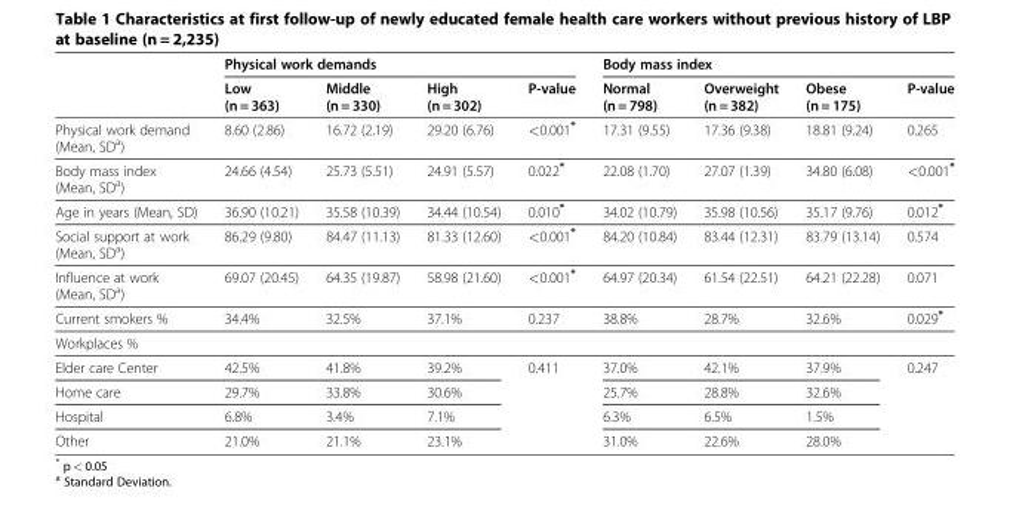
<table><thead><tr><td rowspan="2"></td><td colspan="4">Physical work demands</td><td colspan="4">Body mass index</td></tr><tr><td>Low (n = 363)</td><td>Middle (n = 330)</td><td>High (n = 302)</td><td>P-value</td><td>Normal (n = 798)</td><td>Overweight (n = 382)</td><td>Obese (n = 175)</td><td>P-value</td></tr></thead><tbody><tr><td>Physical work demand (Mean, SD<sup>a</sup>)</td><td>8.60 (2.86)</td><td>16.72 (2.19)</td><td>29.20 (6.76)</td><td>&lt;0.001*</td><td>17.31 (9.55)</td><td>17.36 (9.38)</td><td>18.81 (9.24)</td><td>0.265</td></tr><tr><td>Body mass index (Mean, SD<sup>a</sup>)</td><td>24.66 (4.54)</td><td>25.73 (5.51)</td><td>24.91 (5.57)</td><td>0.022*</td><td>22.08 (1.70)</td><td>27.07 (1.39)</td><td>34.80 (6.08)</td><td>&lt;0.001*</td></tr><tr><td>Age in years (Mean, SD)</td><td>36.90 (10.21)</td><td>35.58 (10.39)</td><td>34.44 (10.54)</td><td>0.010*</td><td>34.02 (10.79)</td><td>35.98 (10.56)</td><td>35.17 (9.76)</td><td>0.012*</td></tr><tr><td>Social support at work (Mean, SD<sup>a</sup>)</td><td>86.29 (9.80)</td><td>84.47 (11.13)</td><td>81.33 (12.60)</td><td>&lt;0.001*</td><td>84.20 (10.84)</td><td>83.44 (12.31)</td><td>83.79 (13.14)</td><td>0.574</td></tr><tr><td>Influence at work (Mean, SD<sup>a</sup>)</td><td>69.07 (20.45)</td><td>64.35 (19.87)</td><td>58.98 (21.60)</td><td>&lt;0.001*</td><td>64.97 (20.34)</td><td>61.54 (22.51)</td><td>64.21 (22.28)</td><td>0.071</td></tr><tr><td>Current smokers %</td><td>34.4%</td><td>32.5%</td><td>37.1%</td><td>0.237</td><td>38.8%</td><td>28.7%</td><td>32.6%</td><td>0.029*</td></tr><tr><td colspan="9">Workplaces %</td></tr><tr><td>Elder care Center</td><td>42.5%</td><td>41.8%</td><td>39.2%</td><td rowspan="4">0.411</td><td>37.0%</td><td>42.1%</td><td>37.9%</td><td rowspan="4">0.247</td></tr><tr><td>Home care</td><td>29.7%</td><td>33.8%</td><td>30.6%</td><td>25.7%</td><td>28.8%</td><td>32.6%</td></tr><tr><td>Hospital</td><td>6.8%</td><td>3.4%</td><td>7.1%</td><td>6.3%</td><td>6.5%</td><td>1.5%</td></tr><tr><td>Other</td><td>21.0%</td><td>21.1%</td><td>23.1%</td><td>31.0%</td><td>22.6%</td><td>28.0%</td></tr></tbody></table>